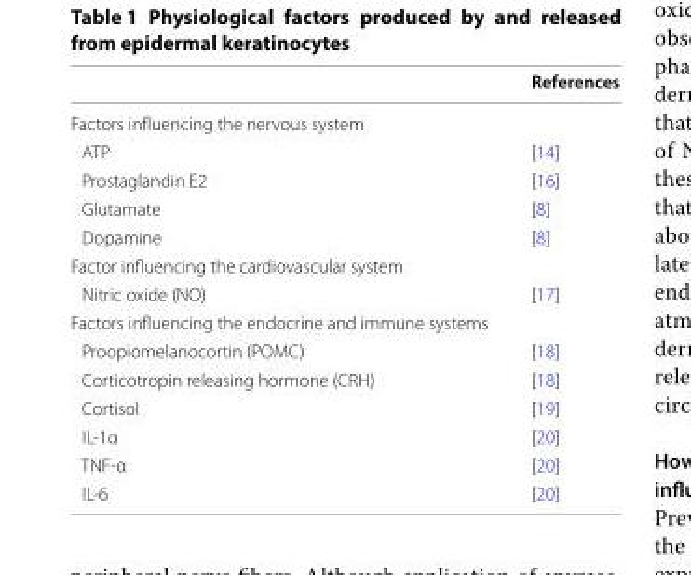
<table><thead><tr><td></td><td>References</td></tr></thead><tbody><tr><td colspan="2">Factors influencing the nervous system</td></tr><tr><td>ATP</td><td>[14]</td></tr><tr><td>Prostaglandin E2</td><td>[16]</td></tr><tr><td>Glutamate</td><td>[8]</td></tr><tr><td>Dopamine</td><td>[8]</td></tr><tr><td colspan="2">Factor influencing the cardiovascular system</td></tr><tr><td>Nitric oxide (NO)</td><td>[17]</td></tr><tr><td colspan="2">Factors influencing the endocrine and immune systems</td></tr><tr><td>Proopiomelanocortin (POMC)</td><td>[18]</td></tr><tr><td>Corticotropin releasing hormone (CRH)</td><td>[18]</td></tr><tr><td>Cortisol</td><td>[19]</td></tr><tr><td>IL‑1α</td><td>[20]</td></tr><tr><td>TNF‑α</td><td>[20]</td></tr><tr><td>IL‑6</td><td>[20]</td></tr></tbody></table>